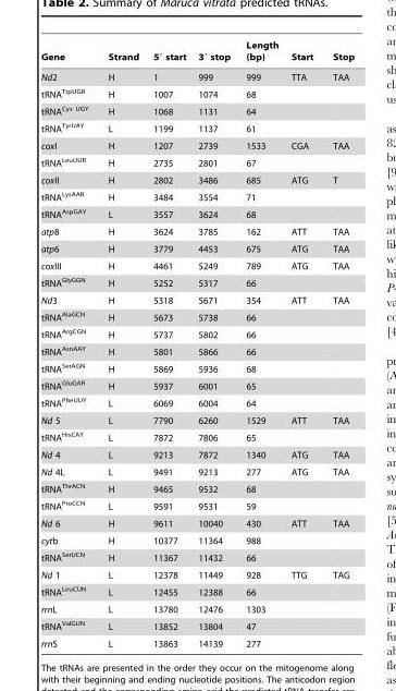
<table><thead><tr><td>Gene</td><td>Strand</td><td>5′ start</td><td>3′ stop</td><td>Length (bp)</td><td>Start</td><td>Stop</td></tr></thead><tbody><tr><td>Nd2</td><td>H</td><td>1</td><td>999</td><td>999</td><td>TTA</td><td>TAA</td></tr><tr><td>tRNA<sup>TrpUGR</sup></td><td>H</td><td>1007</td><td>1074</td><td>68</td><td></td><td></td></tr><tr><td>tRNA<sup>Cys UGY</sup></td><td>H</td><td>1068</td><td>1131</td><td>64</td><td></td><td></td></tr><tr><td>tRNA<sup>TyrUAY</sup></td><td>L</td><td>1199</td><td>1137</td><td>61</td><td></td><td></td></tr><tr><td>coxI</td><td>H</td><td>1207</td><td>2739</td><td>1533</td><td>CGA</td><td>TAA</td></tr><tr><td>tRNA<sup>LeuUUR</sup></td><td>H</td><td>2735</td><td>2801</td><td>67</td><td></td><td></td></tr><tr><td>coxII</td><td>H</td><td>2802</td><td>3486</td><td>685</td><td>ATG</td><td>T</td></tr><tr><td>tRNA<sup>LysAAR</sup></td><td>H</td><td>3484</td><td>3554</td><td>71</td><td></td><td></td></tr><tr><td>tRNA<sup>AspGAY</sup></td><td>L</td><td>3557</td><td>3624</td><td>68</td><td></td><td></td></tr><tr><td>atp8</td><td>H</td><td>3624</td><td>3785</td><td>162</td><td>ATT</td><td>TAA</td></tr><tr><td>atp6</td><td>H</td><td>3779</td><td>4453</td><td>675</td><td>ATG</td><td>TAA</td></tr><tr><td>coxIII</td><td>H</td><td>4461</td><td>5249</td><td>789</td><td>ATG</td><td>TAA</td></tr><tr><td>tRNA<sup>GlyGGN</sup></td><td>H</td><td>5252</td><td>5317</td><td>66</td><td></td><td></td></tr><tr><td>Nd3</td><td>H</td><td>5318</td><td>5671</td><td>354</td><td>ATT</td><td>TAA</td></tr><tr><td>tRNA<sup>AlaGCN</sup></td><td>H</td><td>5673</td><td>5738</td><td>66</td><td></td><td></td></tr><tr><td>tRNA<sup>ArgCGN</sup></td><td>H</td><td>5737</td><td>5802</td><td>66</td><td></td><td></td></tr><tr><td>tRNA<sup>AsnAAY</sup></td><td>H</td><td>5801</td><td>5866</td><td>66</td><td></td><td></td></tr><tr><td>tRNA<sup>SerAGN</sup></td><td>H</td><td>5869</td><td>5936</td><td>68</td><td></td><td></td></tr><tr><td>tRNA<sup>GluGAR</sup></td><td>H</td><td>5937</td><td>6001</td><td>65</td><td></td><td></td></tr><tr><td>tRNA<sup>PheUUY</sup></td><td>L</td><td>6069</td><td>6004</td><td>64</td><td></td><td></td></tr><tr><td>Nd 5</td><td>L</td><td>7790</td><td>6260</td><td>1529</td><td>ATT</td><td>TAA</td></tr><tr><td>tRNA<sup>HisCAY</sup></td><td>L</td><td>7872</td><td>7806</td><td>65</td><td></td><td></td></tr><tr><td>Nd 4</td><td>L</td><td>9213</td><td>7872</td><td>1340</td><td>ATG</td><td>TAA</td></tr><tr><td>Nd 4L</td><td>L</td><td>9491</td><td>9213</td><td>277</td><td>ATG</td><td>TAA</td></tr><tr><td>tRNA<sup>ThrACN</sup></td><td>H</td><td>9465</td><td>9532</td><td>68</td><td></td><td></td></tr><tr><td>tRNA<sup>ProCCN</sup></td><td>L</td><td>9591</td><td>9531</td><td>59</td><td></td><td></td></tr><tr><td>Nd 6</td><td>H</td><td>9611</td><td>10040</td><td>430</td><td>ATT</td><td>TAA</td></tr><tr><td>cytb</td><td>H</td><td>10377</td><td>11364</td><td>988</td><td></td><td></td></tr><tr><td>tRNA<sup>SerUCN</sup></td><td>H</td><td>11367</td><td>11432</td><td>66</td><td></td><td></td></tr><tr><td>Nd 1</td><td>L</td><td>12378</td><td>11449</td><td>928</td><td>TTG</td><td>TAG</td></tr><tr><td>tRNA<sup>LeuCUN</sup></td><td>L</td><td>12455</td><td>12388</td><td>66</td><td></td><td></td></tr><tr><td>rrnL</td><td>L</td><td>13780</td><td>12476</td><td>1303</td><td></td><td></td></tr><tr><td>tRNA<sup>ValGUN</sup></td><td>L</td><td>13852</td><td>13804</td><td>47</td><td></td><td></td></tr><tr><td>rrnS</td><td>L</td><td>13863</td><td>14139</td><td>277</td><td></td><td></td></tr></tbody></table>